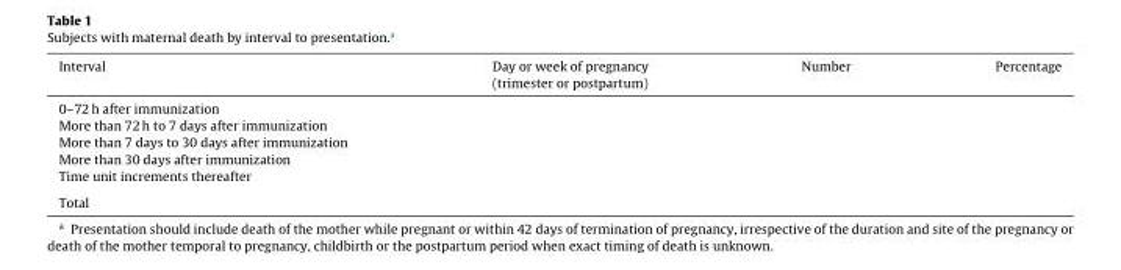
<table><thead><tr><td>Interval</td><td>Day or week of pregnancy (trimester or postpartum)</td><td>Number</td><td>Percentage</td></tr></thead><tbody><tr><td colspan="4">0–72 h after immunization</td></tr><tr><td colspan="4">More than 72 h to 7 days after immunization</td></tr><tr><td colspan="4">More than 7 days to 30 days after immunization</td></tr><tr><td colspan="4">More than 30 days after immunization</td></tr><tr><td colspan="4">Time unit increments thereafter</td></tr><tr><td>Total</td><td></td><td></td><td></td></tr></tbody></table>